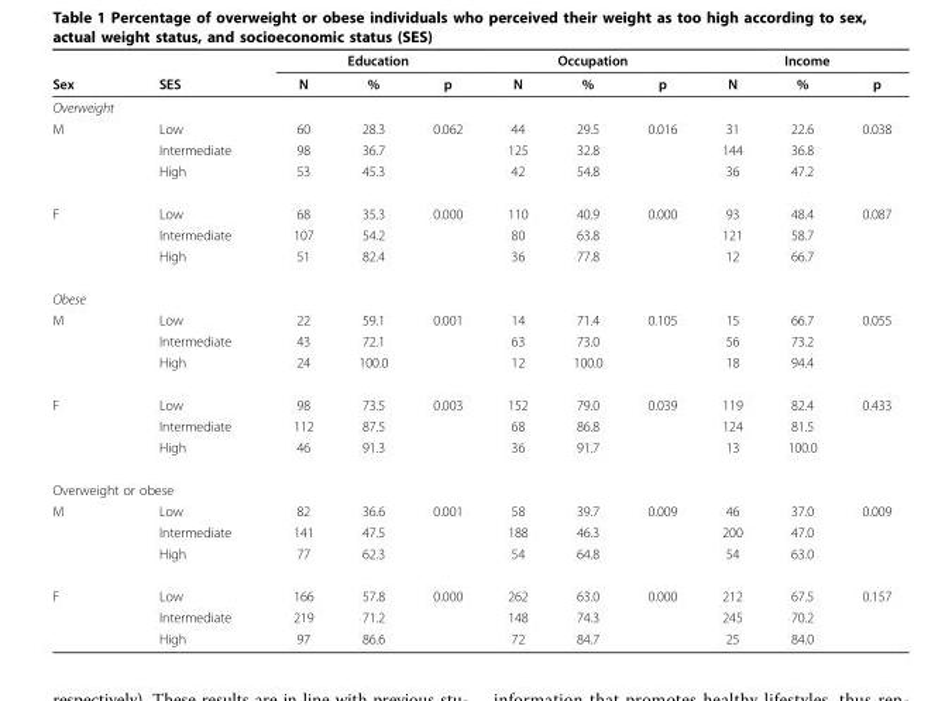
<table><thead><tr><td rowspan="2">Sex</td><td rowspan="2">SES</td><td colspan="3">Education</td><td colspan="3">Occupation</td><td colspan="3">Income</td></tr><tr><td>N</td><td>%</td><td>p</td><td>N</td><td>%</td><td>p</td><td>N</td><td>%</td><td>p</td></tr></thead><tbody><tr><td colspan="11">Overweight</td></tr><tr><td rowspan="3">M</td><td>Low</td><td>60</td><td>28.3</td><td>0.062</td><td>44</td><td>29.5</td><td>0.016</td><td>31</td><td>22.6</td><td>0.038</td></tr><tr><td>Intermediate</td><td>98</td><td>36.7</td><td></td><td>125</td><td>32.8</td><td></td><td>144</td><td>36.8</td><td></td></tr><tr><td>High</td><td>53</td><td>45.3</td><td></td><td>42</td><td>54.8</td><td></td><td>36</td><td>47.2</td><td></td></tr><tr><td rowspan="3">F</td><td>Low</td><td>68</td><td>35.3</td><td>0.000</td><td>110</td><td>40.9</td><td>0.000</td><td>93</td><td>48.4</td><td>0.087</td></tr><tr><td>Intermediate</td><td>107</td><td>54.2</td><td></td><td>80</td><td>63.8</td><td></td><td>121</td><td>58.7</td><td></td></tr><tr><td>High</td><td>51</td><td>82.4</td><td></td><td>36</td><td>77.8</td><td></td><td>12</td><td>66.7</td><td></td></tr><tr><td colspan="11">Obese</td></tr><tr><td rowspan="3">M</td><td>Low</td><td>22</td><td>59.1</td><td>0.001</td><td>14</td><td>71.4</td><td>0.105</td><td>15</td><td>66.7</td><td>0.055</td></tr><tr><td>Intermediate</td><td>43</td><td>72.1</td><td></td><td>63</td><td>73.0</td><td></td><td>56</td><td>73.2</td><td></td></tr><tr><td>High</td><td>24</td><td>100.0</td><td></td><td>12</td><td>100.0</td><td></td><td>18</td><td>94.4</td><td></td></tr><tr><td rowspan="3">F</td><td>Low</td><td>98</td><td>73.5</td><td>0.003</td><td>152</td><td>79.0</td><td>0.039</td><td>119</td><td>82.4</td><td>0.433</td></tr><tr><td>Intermediate</td><td>112</td><td>87.5</td><td></td><td>68</td><td>86.8</td><td></td><td>124</td><td>81.5</td><td></td></tr><tr><td>High</td><td>46</td><td>91.3</td><td></td><td>36</td><td>91.7</td><td></td><td>13</td><td>100.0</td><td></td></tr><tr><td colspan="11">Overweight or obese</td></tr><tr><td rowspan="3">M</td><td>Low</td><td>82</td><td>36.6</td><td>0.001</td><td>58</td><td>39.7</td><td>0.009</td><td>46</td><td>37.0</td><td>0.009</td></tr><tr><td>Intermediate</td><td>141</td><td>47.5</td><td></td><td>188</td><td>46.3</td><td></td><td>200</td><td>47.0</td><td></td></tr><tr><td>High</td><td>77</td><td>62.3</td><td></td><td>54</td><td>64.8</td><td></td><td>54</td><td>63.0</td><td></td></tr><tr><td rowspan="3">F</td><td>Low</td><td>166</td><td>57.8</td><td>0.000</td><td>262</td><td>63.0</td><td>0.000</td><td>212</td><td>67.5</td><td>0.157</td></tr><tr><td>Intermediate</td><td>219</td><td>71.2</td><td></td><td>148</td><td>74.3</td><td></td><td>245</td><td>70.2</td><td></td></tr><tr><td>High</td><td>97</td><td>86.6</td><td></td><td>72</td><td>84.7</td><td></td><td>25</td><td>84.0</td><td></td></tr></tbody></table>